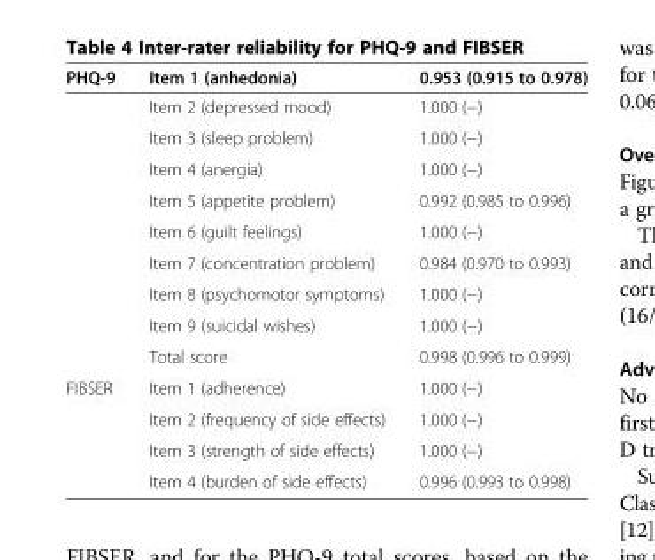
<table><thead><tr><td>PHQ-9</td><td>Item 1 (anhedonia)</td><td>0.953 (0.915 to 0.978)</td></tr></thead><tbody><tr><td></td><td>Item 2 (depressed mood)</td><td>1.000 (−)</td></tr><tr><td></td><td>Item 3 (sleep problem)</td><td>1.000 (−)</td></tr><tr><td></td><td>Item 4 (anergia)</td><td>1.000 (−)</td></tr><tr><td></td><td>Item 5 (appetite problem)</td><td>0.992 (0.985 to 0.996)</td></tr><tr><td></td><td>Item 6 (guilt feelings)</td><td>1.000 (−)</td></tr><tr><td></td><td>Item 7 (concentration problem)</td><td>0.984 (0.970 to 0.993)</td></tr><tr><td></td><td>Item 8 (psychomotor symptoms)</td><td>1.000 (−)</td></tr><tr><td></td><td>Item 9 (suicidal wishes)</td><td>1.000 (−)</td></tr><tr><td></td><td>Total score</td><td>0.998 (0.996 to 0.999)</td></tr><tr><td rowspan="4">FIBSER</td><td>Item 1 (adherence)</td><td>1.000 (−)</td></tr><tr><td>Item 2 (frequency of side effects)</td><td>1.000 (−)</td></tr><tr><td>Item 3 (strength of side effects)</td><td>1.000 (−)</td></tr><tr><td>Item 4 (burden of side effects)</td><td>0.996 (0.993 to 0.998)</td></tr></tbody></table>